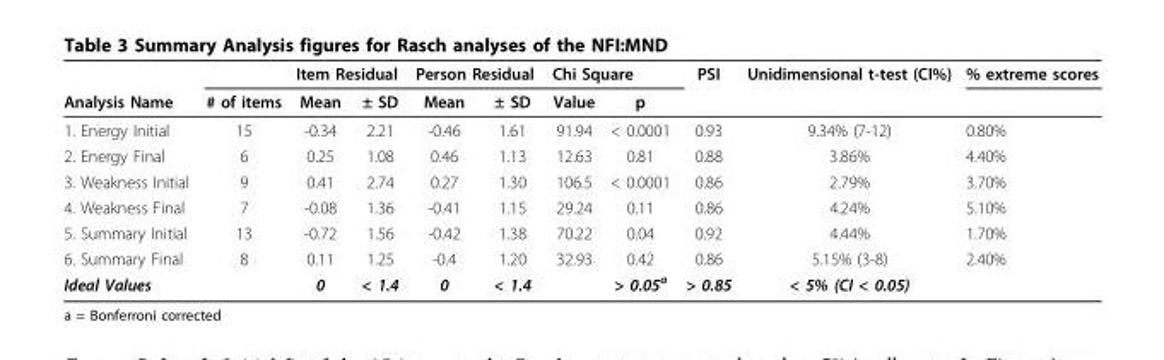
<table><thead><tr><td rowspan="2">Analysis Name</td><td rowspan="2"># of items</td><td colspan="2">Item Residual</td><td colspan="2">Person Residual</td><td colspan="2">Chi Square</td><td rowspan="2">PSI</td><td rowspan="2">Unidimensional t-test (CI%)</td><td rowspan="2">% extreme scores</td></tr><tr><td>Mean</td><td>± SD</td><td>Mean</td><td>± SD</td><td>Value</td><td>p</td></tr></thead><tbody><tr><td>1. Energy Initial</td><td>15</td><td>-0.34</td><td>2.21</td><td>-0.46</td><td>1.61</td><td>91.94</td><td>&lt; 0.0001</td><td>0.93</td><td>9.34% (7-12)</td><td>0.80%</td></tr><tr><td>2. Energy Final</td><td>6</td><td>0.25</td><td>1.08</td><td>0.46</td><td>1.13</td><td>12.63</td><td>0.81</td><td>0.88</td><td>3.86%</td><td>4.40%</td></tr><tr><td>3. Weakness Initial</td><td>9</td><td>0.41</td><td>2.74</td><td>0.27</td><td>1.30</td><td>106.5</td><td>&lt; 0.0001</td><td>0.86</td><td>2.79%</td><td>3.70%</td></tr><tr><td>4. Weakness Final</td><td>7</td><td>-0.08</td><td>1.36</td><td>-0.41</td><td>1.15</td><td>29.24</td><td>0.11</td><td>0.86</td><td>4.24%</td><td>5.10%</td></tr><tr><td>5. Summary Initial</td><td>13</td><td>-0.72</td><td>1.56</td><td>-0.42</td><td>1.38</td><td>70.22</td><td>0.04</td><td>0.92</td><td>4.44%</td><td>1.70%</td></tr><tr><td>6. Summary Final</td><td>8</td><td>0.11</td><td>1.25</td><td>-0.4</td><td>1.20</td><td>32.93</td><td>0.42</td><td>0.86</td><td>5.15% (3-8)</td><td>2.40%</td></tr><tr><td>Ideal Values</td><td></td><td>0</td><td>&lt; 1.4</td><td>0</td><td>&lt; 1.4</td><td></td><td>&gt; 0.05<sup>a</sup></td><td>&gt; 0.85</td><td>&lt; 5% (CI &lt; 0.05)</td><td></td></tr></tbody></table>